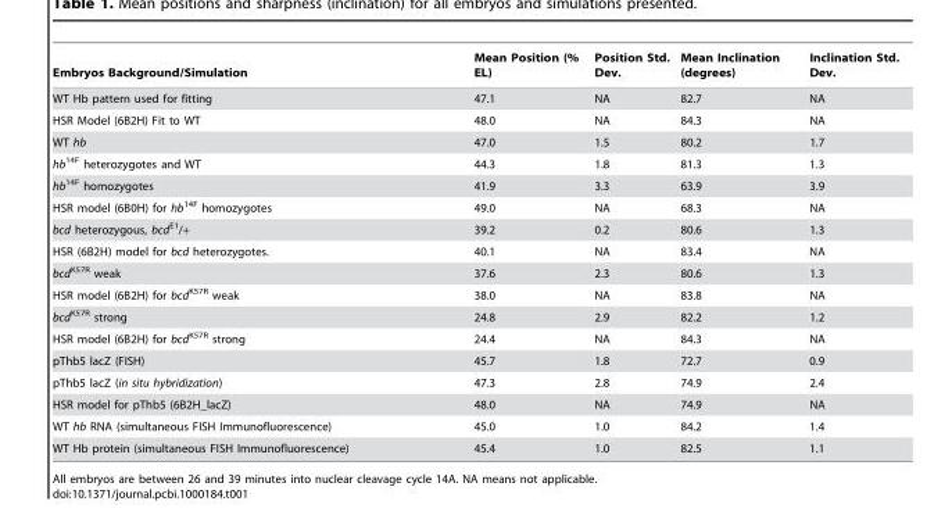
<table><thead><tr><td>Embryos Background/Simulation</td><td>Mean Position (% EL)</td><td>Position Std. Dev.</td><td>Mean Inclination (degrees)</td><td>Inclination Std. Dev.</td></tr></thead><tbody><tr><td>WT Hb pattern used for fitting</td><td>47.1</td><td>NA</td><td>82.7</td><td>NA</td></tr><tr><td>HSR Model (6B2H) Fit to WT</td><td>48.0</td><td>NA</td><td>84.3</td><td>NA</td></tr><tr><td>WT hb</td><td>47.0</td><td>1.5</td><td>80.2</td><td>1.7</td></tr><tr><td>hb<sup>14F</sup> heterozygotes and WT</td><td>44.3</td><td>1.8</td><td>81.3</td><td>1.3</td></tr><tr><td>hb<sup>14F</sup> homozygotes</td><td>41.9</td><td>3.3</td><td>63.9</td><td>3.9</td></tr><tr><td>HSR model (6B0H) for hb<sup>14F</sup> homozygotes</td><td>49.0</td><td>NA</td><td>68.3</td><td>NA</td></tr><tr><td>bcd heterozygous, bcd<sup>E1</sup>/+</td><td>39.2</td><td>0.2</td><td>80.6</td><td>1.3</td></tr><tr><td>HSR (6B2H) model for bcd heterozygotes.</td><td>40.1</td><td>NA</td><td>83.4</td><td>NA</td></tr><tr><td>bcd<sup>K57R</sup> weak</td><td>37.6</td><td>2.3</td><td>80.6</td><td>1.3</td></tr><tr><td>HSR model (6B2H) for bcd<sup>K57R</sup> weak</td><td>38.0</td><td>NA</td><td>83.8</td><td>NA</td></tr><tr><td>bcd<sup>K57R</sup> strong</td><td>24.8</td><td>2.9</td><td>82.2</td><td>1.2</td></tr><tr><td>HSR model (6B2H) for bcd<sup>K57R</sup> strong</td><td>24.4</td><td>NA</td><td>84.3</td><td>NA</td></tr><tr><td>pThb5 lacZ (FISH)</td><td>45.7</td><td>1.8</td><td>72.7</td><td>0.9</td></tr><tr><td>pThb5 lacZ (in situ hybridization)</td><td>47.3</td><td>2.8</td><td>74.9</td><td>2.4</td></tr><tr><td>HSR model for pThb5 (6B2H_lacZ)</td><td>48.0</td><td>NA</td><td>74.9</td><td>NA</td></tr><tr><td>WT hb RNA (simultaneous FISH Immunofluorescence)</td><td>45.0</td><td>1.0</td><td>84.2</td><td>1.4</td></tr><tr><td>WT Hb protein (simultaneous FISH Immunofluorescence)</td><td>45.4</td><td>1.0</td><td>82.5</td><td>1.1</td></tr></tbody></table>